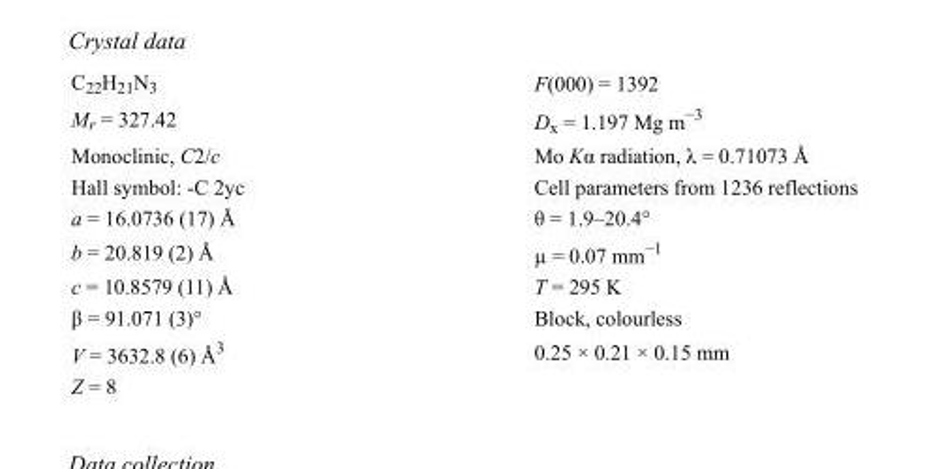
<table><tbody><tr><td>C<sub>22</sub>H<sub>21</sub>N<sub>3</sub></td><td>F(000) = 1392</td></tr><tr><td>M<sub>r</sub> = 327.42</td><td>D<sub>x</sub> = 1.197 Mg m<sup>−3</sup></td></tr><tr><td>Monoclinic, C2/c</td><td>Mo Kα radiation, λ = 0.71073 Å</td></tr><tr><td>Hall symbol: -C 2yc</td><td>Cell parameters from 1236 reflections</td></tr><tr><td>a = 16.0736 (17) Å</td><td>θ = 1.9–20.4°</td></tr><tr><td>b = 20.819 (2) Å</td><td>µ = 0.07 mm<sup>−1</sup></td></tr><tr><td>c = 10.8579 (11) Å</td><td>T = 295 K</td></tr><tr><td>β = 91.071 (3)°</td><td>Block, colourless</td></tr><tr><td>V = 3632.8 (6) Å<sup>3</sup></td><td>0.25 × 0.21 × 0.15 mm</td></tr><tr><td>Z = 8</td><td></td></tr></tbody></table>